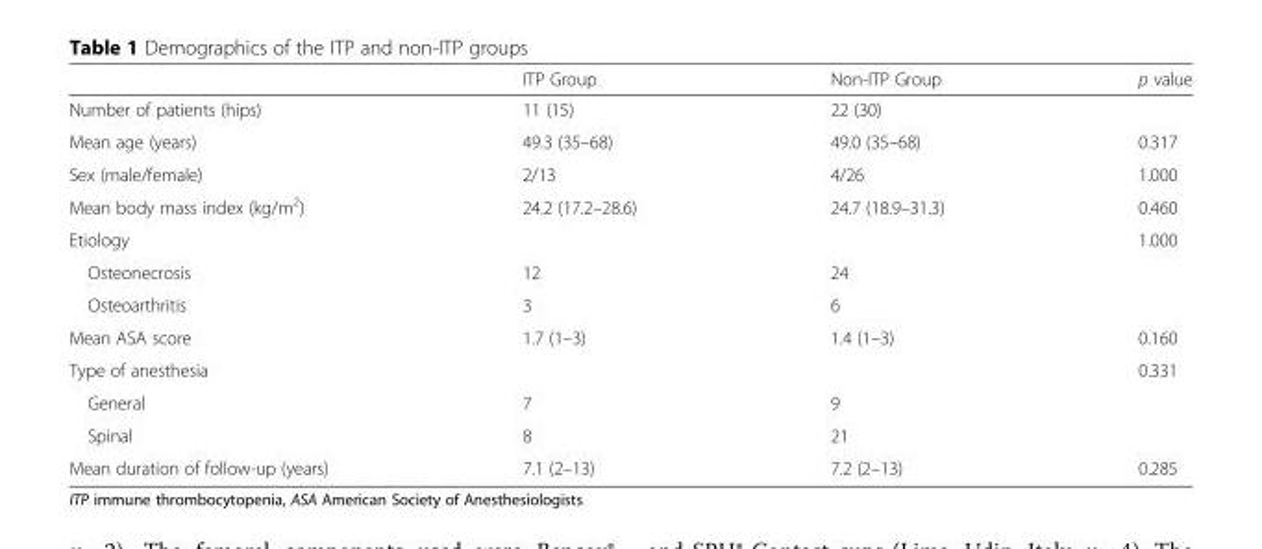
<table><thead><tr><td></td><td>ITP Group</td><td>Non-ITP Group</td><td>p value</td></tr></thead><tbody><tr><td>Number of patients (hips)</td><td>11 (15)</td><td>22 (30)</td><td></td></tr><tr><td>Mean age (years)</td><td>49.3 (35–68)</td><td>49.0 (35–68)</td><td>0.317</td></tr><tr><td>Sex (male/female)</td><td>2/13</td><td>4/26</td><td>1.000</td></tr><tr><td>Mean body mass index (kg/m<sup>2</sup>)</td><td>24.2 (17.2–28.6)</td><td>24.7 (18.9–31.3)</td><td>0.460</td></tr><tr><td>Etiology</td><td></td><td></td><td>1.000</td></tr><tr><td>Osteonecrosis</td><td>12</td><td>24</td><td></td></tr><tr><td>Osteoarthritis</td><td>3</td><td>6</td><td></td></tr><tr><td>Mean ASA score</td><td>1.7 (1–3)</td><td>1.4 (1–3)</td><td>0.160</td></tr><tr><td>Type of anesthesia</td><td></td><td></td><td>0.331</td></tr><tr><td>General</td><td>7</td><td>9</td><td></td></tr><tr><td>Spinal</td><td>8</td><td>21</td><td></td></tr><tr><td>Mean duration of follow-up (years)</td><td>7.1 (2–13)</td><td>7.2 (2–13)</td><td>0.285</td></tr></tbody></table>